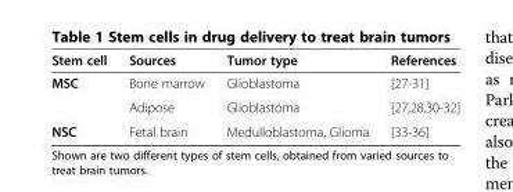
<table><thead><tr><td>Stem cell</td><td>Sources</td><td>Tumor type</td><td>References</td></tr></thead><tbody><tr><td rowspan="2">MSC</td><td>Bone marrow</td><td>Glioblastoma</td><td>[27-31]</td></tr><tr><td>Adipose</td><td>Glioblastoma</td><td>[27,28,30-32]</td></tr><tr><td>NSC</td><td>Fetal brain</td><td>Medulloblastoma, Glioma</td><td>[33-36]</td></tr></tbody></table>